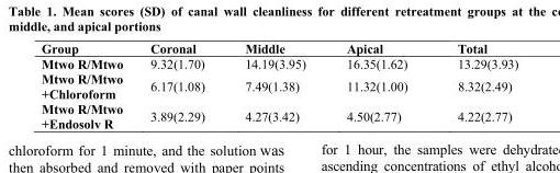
<table><thead><tr><td>Group</td><td>Coronal</td><td>Middle</td><td>Apical</td><td>Total</td></tr></thead><tbody><tr><td>Mtwo R/Mtwo</td><td>9.32(1.70)</td><td>14.19(3.95)</td><td>16.35(1.62)</td><td>13.29(3.93)</td></tr><tr><td>Mtwo R/Mtwo +Chloroform</td><td>6.17(1.08)</td><td>7.49(1.38)</td><td>11.32(1.00)</td><td>8.32(2.49)</td></tr><tr><td>Mtwo R/Mtwo +Endosolv R</td><td>3.89(2.29)</td><td>4.27(3.42)</td><td>4.50(2.77)</td><td>4.22(2.77)</td></tr></tbody></table>